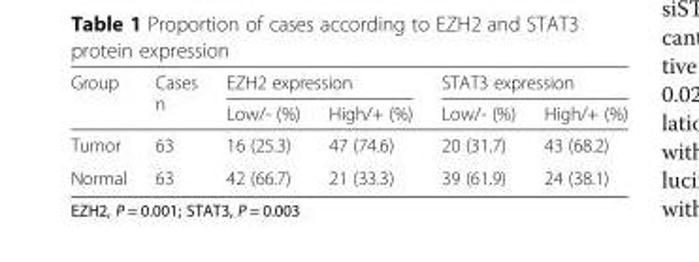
<table><thead><tr><td rowspan="2">Group</td><td rowspan="2">Cases n</td><td colspan="2">EZH2 expression</td><td colspan="2">STAT3 expression</td></tr><tr><td>Low/- (%)</td><td>High/+ (%)</td><td>Low/- (%)</td><td>High/+ (%)</td></tr></thead><tbody><tr><td>Tumor</td><td>63</td><td>16 (25.3)</td><td>47 (74.6)</td><td>20 (31.7)</td><td>43 (68.2)</td></tr><tr><td>Normal</td><td>63</td><td>42 (66.7)</td><td>21 (33.3)</td><td>39 (61.9)</td><td>24 (38.1)</td></tr></tbody></table>